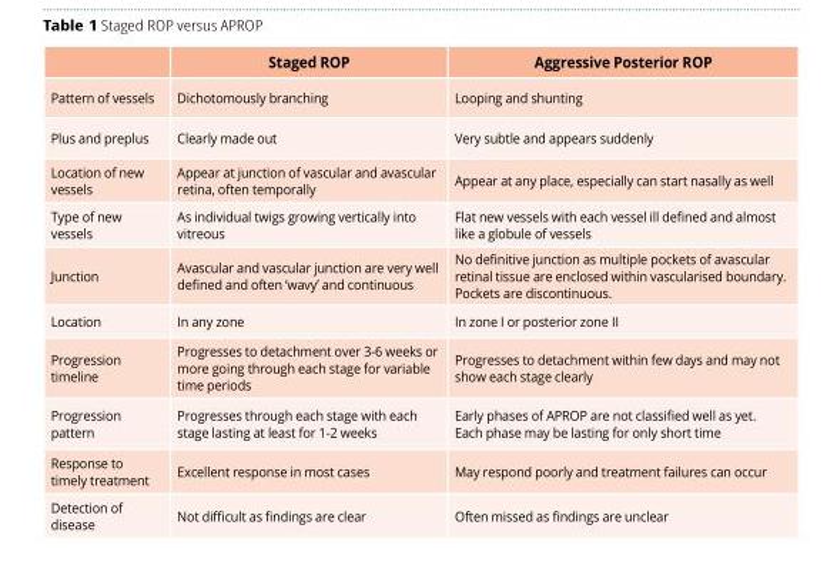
<table><thead><tr><td></td><td>Staged ROP</td><td>Aggressive Posterior ROP</td></tr></thead><tbody><tr><td>Pattern of vessels</td><td>Dichotomously branching</td><td>Looping and shunting</td></tr><tr><td>Plus and preplus</td><td>Clearly made out</td><td>Very subtle and appears suddenly</td></tr><tr><td>Location of new vessels</td><td>Appear at junction of vascular and avascular retina, often temporally</td><td>Appear at any place, especially can start nasally as well</td></tr><tr><td>Type of new vessels</td><td>As individual twigs growing vertically into vitreous</td><td>Flat new vessels with each vessel ill defined and almost like a globule of vessels</td></tr><tr><td>Junction</td><td>Avascular and vascular junction are very well defined and often ‘wavy’ and continuous</td><td>No definitive junction as multiple pockets of avascular retinal tissue are enclosed within vascularised boundary. Pockets are discontinuous.</td></tr><tr><td>Location</td><td>In any zone</td><td>In zone I or posterior zone II</td></tr><tr><td>Progression timeline</td><td>Progresses to detachment over 3-6 weeks or more going through each stage for variable time periods</td><td>Progresses to detachment within few days and may not show each stage clearly</td></tr><tr><td>Progression pattern</td><td>Progresses through each stage with each stage lasting at least for 1-2 weeks</td><td>Early phases of APROP are not classified well as yet. Each phase may be lasting for only short time</td></tr><tr><td>Response to timely treatment</td><td>Excellent response in most cases</td><td>May respond poorly and treatment failures can occur</td></tr><tr><td>Detection of disease</td><td>Not difficult as findings are clear</td><td>Often missed as findings are unclear</td></tr></tbody></table>